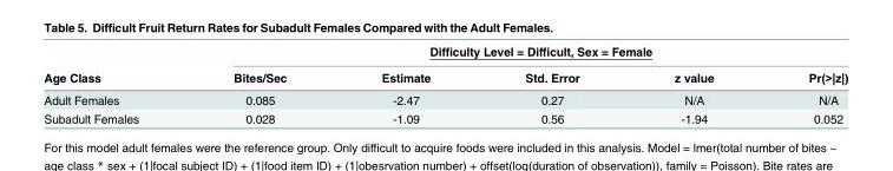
<table><thead><tr><td rowspan="2">Age Class</td><td colspan="5">Difficulty Level = Difficult, Sex = Female</td></tr><tr><td>Bites/Sec</td><td>Estimate</td><td>Std. Error</td><td>z value</td><td>Pr(&gt;|z|)</td></tr></thead><tbody><tr><td>Adult Females</td><td>0.085</td><td>-2.47</td><td>0.27</td><td>N/A</td><td>N/A</td></tr><tr><td>Subadult Females</td><td>0.028</td><td>-1.09</td><td>0.56</td><td>-1.94</td><td>0.052</td></tr></tbody></table>